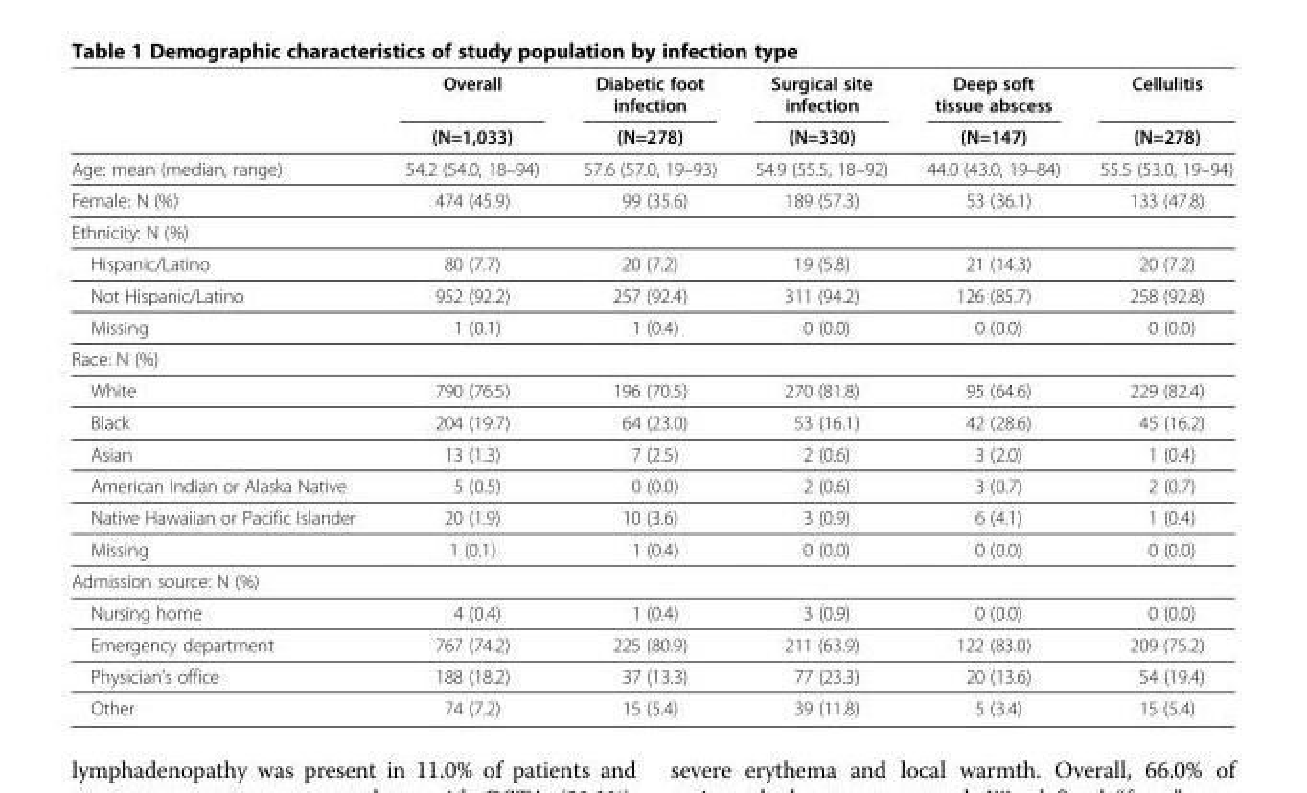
<table><thead><tr><td rowspan="2"></td><td rowspan="2">Overall (N=1,033)</td><td rowspan="2">Diabetic foot infection (N=278)</td><td rowspan="2">Surgical site infection (N=330)</td><td rowspan="2">Deep soft tissue abscess (N=147)</td><td rowspan="2">Cellulitis (N=278)</td></tr><tr></tr></thead><tbody><tr><td>Age: mean (median, range)</td><td>54.2 (54.0, 18–94)</td><td>57.6 (57.0, 19–93)</td><td>54.9 (55.5, 18–92)</td><td>44.0 (43.0, 19–84)</td><td>55.5 (53.0, 19–94)</td></tr><tr><td>Female: N (%)</td><td>474 (45.9)</td><td>99 (35.6)</td><td>189 (57.3)</td><td>53 (36.1)</td><td>133 (47.8)</td></tr><tr><td colspan="6">Ethnicity: N (%)</td></tr><tr><td>Hispanic/Latino</td><td>80 (7.7)</td><td>20 (7.2)</td><td>19 (5.8)</td><td>21 (14.3)</td><td>20 (7.2)</td></tr><tr><td>Not Hispanic/Latino</td><td>952 (92.2)</td><td>257 (92.4)</td><td>311 (94.2)</td><td>126 (85.7)</td><td>258 (92.8)</td></tr><tr><td>Missing</td><td>1 (0.1)</td><td>1 (0.4)</td><td>0 (0.0)</td><td>0 (0.0)</td><td>0 (0.0)</td></tr><tr><td colspan="6">Race: N (%)</td></tr><tr><td>White</td><td>790 (76.5)</td><td>196 (70.5)</td><td>270 (81.8)</td><td>95 (64.6)</td><td>229 (82.4)</td></tr><tr><td>Black</td><td>204 (19.7)</td><td>64 (23.0)</td><td>53 (16.1)</td><td>42 (28.6)</td><td>45 (16.2)</td></tr><tr><td>Asian</td><td>13 (1.3)</td><td>7 (2.5)</td><td>2 (0.6)</td><td>3 (2.0)</td><td>1 (0.4)</td></tr><tr><td>American Indian or Alaska Native</td><td>5 (0.5)</td><td>0 (0.0)</td><td>2 (0.6)</td><td>3 (0.7)</td><td>2 (0.7)</td></tr><tr><td>Native Hawaiian or Pacific Islander</td><td>20 (1.9)</td><td>10 (3.6)</td><td>3 (0.9)</td><td>6 (4.1)</td><td>1 (0.4)</td></tr><tr><td>Missing</td><td>1 (0.1)</td><td>1 (0.4)</td><td>0 (0.0)</td><td>0 (0.0)</td><td>0 (0.0)</td></tr><tr><td colspan="6">Admission source: N (%)</td></tr><tr><td>Nursing home</td><td>4 (0.4)</td><td>1 (0.4)</td><td>3 (0.9)</td><td>0 (0.0)</td><td>0 (0.0)</td></tr><tr><td>Emergency department</td><td>767 (74.2)</td><td>225 (80.9)</td><td>211 (63.9)</td><td>122 (83.0)</td><td>209 (75.2)</td></tr><tr><td>Physician’s office</td><td>188 (18.2)</td><td>37 (13.3)</td><td>77 (23.3)</td><td>20 (13.6)</td><td>54 (19.4)</td></tr><tr><td>Other</td><td>74 (7.2)</td><td>15 (5.4)</td><td>39 (11.8)</td><td>5 (3.4)</td><td>15 (5.4)</td></tr></tbody></table>